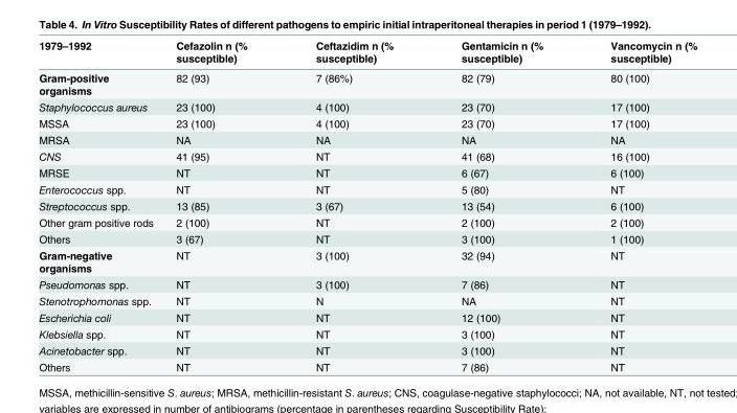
<table><thead><tr><td>1979–1992</td><td>Cefazolin n (% susceptible)</td><td>Ceftazidim n (% susceptible)</td><td>Gentamicin n (% susceptible)</td><td>Vancomycin n (% susceptible)</td></tr></thead><tbody><tr><td>Gram-positive organisms</td><td>82 (93)</td><td>7 (86%)</td><td>82 (79)</td><td>80 (100)</td></tr><tr><td>Staphylococcus aureus</td><td>23 (100)</td><td>4 (100)</td><td>23 (70)</td><td>17 (100)</td></tr><tr><td>MSSA</td><td>23 (100)</td><td>4 (100)</td><td>23 (70)</td><td>17 (100)</td></tr><tr><td>MRSA</td><td>NA</td><td>NA</td><td>NA</td><td>NA</td></tr><tr><td>CNS</td><td>41 (95)</td><td>NT</td><td>41 (68)</td><td>16 (100)</td></tr><tr><td>MRSE</td><td>NT</td><td>NT</td><td>6 (67)</td><td>6 (100)</td></tr><tr><td>Enterococcus spp.</td><td>NT</td><td>NT</td><td>5 (80)</td><td>NT</td></tr><tr><td>Streptococcus spp.</td><td>13 (85)</td><td>3 (67)</td><td>13 (54)</td><td>6 (100)</td></tr><tr><td>Other gram positive rods</td><td>2 (100)</td><td>NT</td><td>2 (100)</td><td>2 (100)</td></tr><tr><td>Others</td><td>3 (67)</td><td>NT</td><td>3 (100)</td><td>1 (100)</td></tr><tr><td>Gram-negative organisms</td><td>NT</td><td>3 (100)</td><td>32 (94)</td><td>NT</td></tr><tr><td>Pseudomonas spp.</td><td>NT</td><td>3 (100)</td><td>7 (86)</td><td>NT</td></tr><tr><td>Stenotrophomonas spp.</td><td>NT</td><td>N</td><td>NA</td><td>NT</td></tr><tr><td>Escherichia coli</td><td>NT</td><td>NT</td><td>12 (100)</td><td>NT</td></tr><tr><td>Klebsiella spp.</td><td>NT</td><td>NT</td><td>3 (100)</td><td>NT</td></tr><tr><td>Acinetobacter spp.</td><td>NT</td><td>NT</td><td>3 (100)</td><td>NT</td></tr><tr><td>Others</td><td>NT</td><td>NT</td><td>7 (86)</td><td>NT</td></tr></tbody></table>